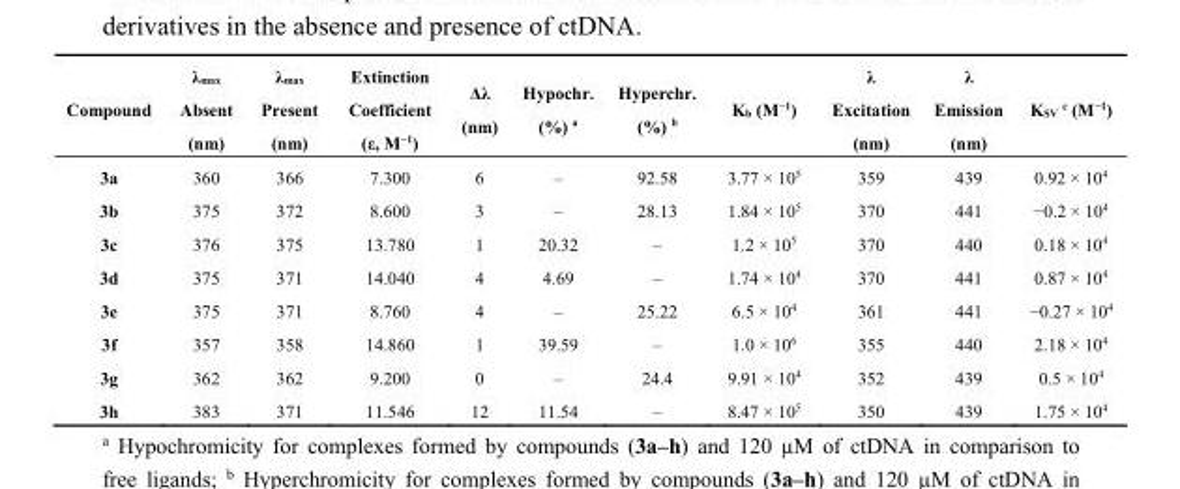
<table><thead><tr><td>Compound</td><td>λ<sub>max</sub> Absent (nm)</td><td>λ<sub>max</sub> Present (nm)</td><td>Extinction Coefficient (ε, M<sup>−1</sup>)</td><td>Δλ (nm)</td><td>Hypochr. (%) <sup>a</sup></td><td>Hyperchr. (%) <sup>b</sup></td><td>K<sub>b</sub> (M<sup>−1</sup>)</td><td>λ Excitation (nm)</td><td>λ Emission (nm)</td><td>K<sub>SV</sub> <sup>c</sup> (M<sup>−1</sup>)</td></tr></thead><tbody><tr><td>3a</td><td>360</td><td>366</td><td>7.300</td><td>6</td><td>–</td><td>92.58</td><td>3.77 × 10<sup>5</sup></td><td>359</td><td>439</td><td>0.92 × 10<sup>4</sup></td></tr><tr><td>3b</td><td>375</td><td>372</td><td>8.600</td><td>3</td><td>–</td><td>28.13</td><td>1.84 × 10<sup>5</sup></td><td>370</td><td>441</td><td>−0.2 × 10<sup>4</sup></td></tr><tr><td>3c</td><td>376</td><td>375</td><td>13.780</td><td>1</td><td>20.32</td><td>–</td><td>1.2 × 10<sup>5</sup></td><td>370</td><td>440</td><td>0.18 × 10<sup>4</sup></td></tr><tr><td>3d</td><td>375</td><td>371</td><td>14.040</td><td>4</td><td>4.69</td><td>–</td><td>1.74 × 10<sup>4</sup></td><td>370</td><td>441</td><td>0.87 × 10<sup>4</sup></td></tr><tr><td>3e</td><td>375</td><td>371</td><td>8.760</td><td>4</td><td>–</td><td>25.22</td><td>6.5 × 10<sup>4</sup></td><td>361</td><td>441</td><td>−0.27 × 10<sup>4</sup></td></tr><tr><td>3f</td><td>357</td><td>358</td><td>14.860</td><td>1</td><td>39.59</td><td>–</td><td>1.0 × 10<sup>6</sup></td><td>355</td><td>440</td><td>2.18 × 10<sup>4</sup></td></tr><tr><td>3g</td><td>362</td><td>362</td><td>9.200</td><td>0</td><td>–</td><td>24.4</td><td>9.91 × 10<sup>4</sup></td><td>352</td><td>439</td><td>0.5 × 10<sup>4</sup></td></tr><tr><td>3h</td><td>383</td><td>371</td><td>11.546</td><td>12</td><td>11.54</td><td>–</td><td>8.47 × 10<sup>5</sup></td><td>350</td><td>439</td><td>1.75 × 10<sup>4</sup></td></tr></tbody></table>